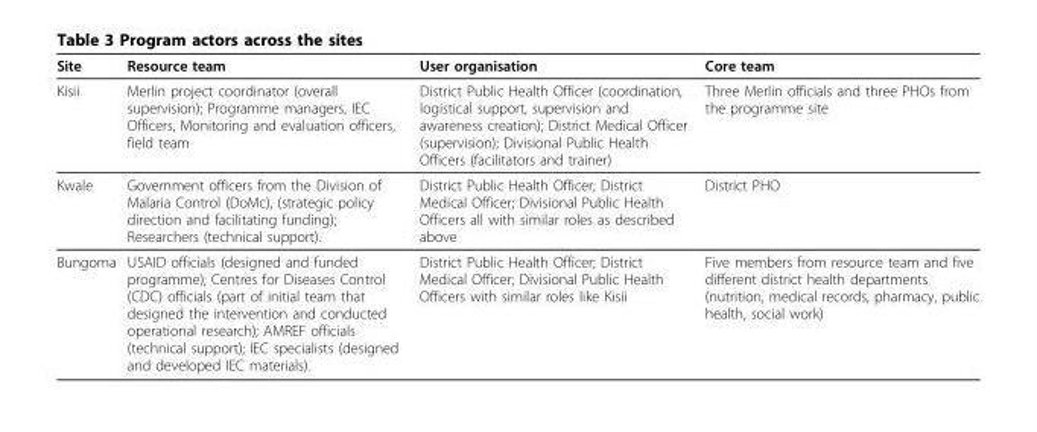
<table><thead><tr><td>Site</td><td>Resource team</td><td>User organisation</td><td>Core team</td></tr></thead><tbody><tr><td>Kisii</td><td>Merlin project coordinator (overall supervision); Programme managers, IEC Officers, Monitoring and evaluation officers, field team</td><td>District Public Health Officer (coordination, logistical support, supervision and awareness creation); District Medical Officer (supervision); Divisional Public Health Officers (facilitators and trainer)</td><td>Three Merlin officials and three PHOs from the programme site</td></tr><tr><td>Kwale</td><td>Government officers from the Division of Malaria Control (DoMc), (strategic policy direction and facilitating funding); Researchers (technical support).</td><td>District Public Health Officer; District Medical Officer; Divisional Public Health Officers all with similar roles as described above</td><td>District PHO</td></tr><tr><td>Bungoma</td><td>USAID officials (designed and funded programme); Centres for Diseases Control (CDC) officials (part of initial team that designed the intervention and conducted operational research); AMREF officials (technical support); IEC specialists (designed and developed IEC materials).</td><td>District Public Health Officer; District Medical Officer; Divisional Public Health Officers with similar roles like Kisii</td><td>Five members from resource team and five different district health departments (nutrition, medical records, pharmacy, public health, social work)</td></tr></tbody></table>